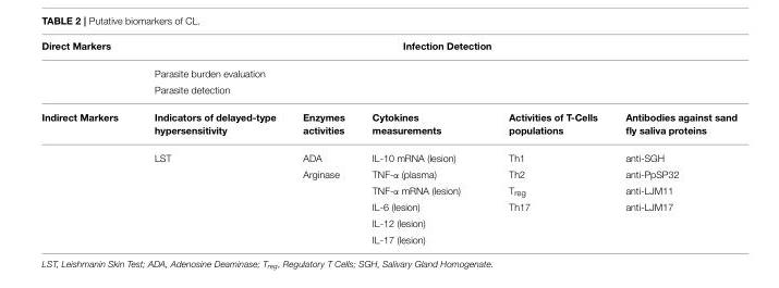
<table><thead><tr><td rowspan="4">Direct Markers Indirect Markers</td><td rowspan="3" colspan="5">Infection Detection Parasite burden evaluation Parasite detection</td></tr><tr></tr><tr></tr><tr><td>Indicators of delayed-type hypersensitivity</td><td>Enzymes activities</td><td>Cytokines measurements</td><td>Activities of T-Cells populations</td><td>Antibodies against sand fly saliva proteins</td></tr></thead><tbody><tr><td></td><td>LST</td><td>ADA</td><td>IL-10 mRNA (lesion)</td><td>Th1</td><td>anti-SGH</td></tr><tr><td></td><td></td><td>Arginase</td><td>TNF-α (plasma)</td><td>Th2</td><td>anti-PpSP32</td></tr><tr><td></td><td></td><td></td><td>TNF-α mRNA (lesion)</td><td>T<sub>reg</sub></td><td>anti-LJM11</td></tr><tr><td></td><td></td><td></td><td>IL-6 (lesion)</td><td>Th17</td><td>anti-LJM17</td></tr><tr><td></td><td></td><td></td><td>IL-12 (lesion)</td><td></td><td></td></tr><tr><td></td><td></td><td></td><td>IL-17 (lesion)</td><td></td><td></td></tr></tbody></table>